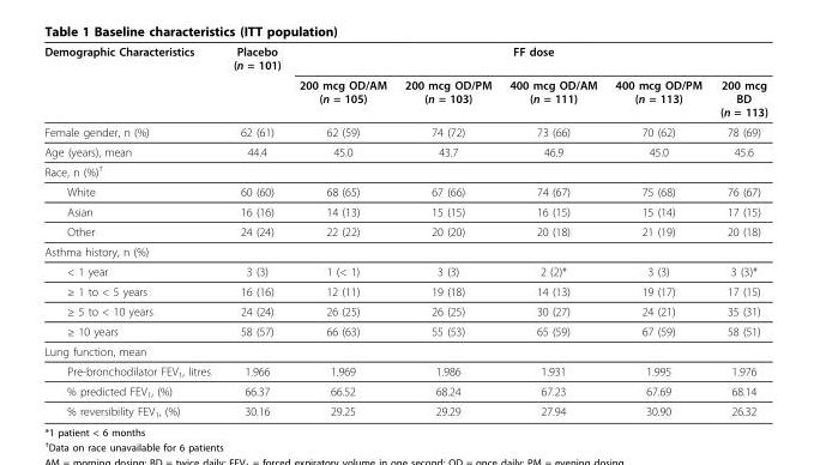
<table><thead><tr><td rowspan="2">Demographic Characteristics</td><td rowspan="2">Placebo (n = 101)</td><td colspan="5">FF dose</td></tr><tr><td>200 mcg OD/AM (n = 105)</td><td>200 mcg OD/PM (n = 103)</td><td>400 mcg OD/AM (n = 111)</td><td>400 mcg OD/PM (n = 113)</td><td>200 mcg BD (n = 113)</td></tr></thead><tbody><tr><td>Female gender, n (%)</td><td>62 (61)</td><td>62 (59)</td><td>74 (72)</td><td>73 (66)</td><td>70 (62)</td><td>78 (69)</td></tr><tr><td>Age (years), mean</td><td>44.4</td><td>45.0</td><td>43.7</td><td>46.9</td><td>45.0</td><td>45.6</td></tr><tr><td colspan="7">Race, n (%)<sup>†</sup></td></tr><tr><td>White</td><td>60 (60)</td><td>68 (65)</td><td>67 (66)</td><td>74 (67)</td><td>75 (68)</td><td>76 (67)</td></tr><tr><td>Asian</td><td>16 (16)</td><td>14 (13)</td><td>15 (15)</td><td>16 (15)</td><td>15 (14)</td><td>17 (15)</td></tr><tr><td>Other</td><td>24 (24)</td><td>22 (22)</td><td>20 (20)</td><td>20 (18)</td><td>21 (19)</td><td>20 (18)</td></tr><tr><td colspan="7">Asthma history, n (%)</td></tr><tr><td>&lt; 1 year</td><td>3 (3)</td><td>1 (&lt; 1)</td><td>3 (3)</td><td>2 (2)*</td><td>3 (3)</td><td>3 (3)*</td></tr><tr><td>≥ 1 to &lt; 5 years</td><td>16 (16)</td><td>12 (11)</td><td>19 (18)</td><td>14 (13)</td><td>19 (17)</td><td>17 (15)</td></tr><tr><td>≥ 5 to &lt; 10 years</td><td>24 (24)</td><td>26 (25)</td><td>26 (25)</td><td>30 (27)</td><td>24 (21)</td><td>35 (31)</td></tr><tr><td>≥ 10 years</td><td>58 (57)</td><td>66 (63)</td><td>55 (53)</td><td>65 (59)</td><td>67 (59)</td><td>58 (51)</td></tr><tr><td colspan="7">Lung function, mean</td></tr><tr><td>Pre-bronchodilator FEV<sub>1</sub>, litres</td><td>1.966</td><td>1.969</td><td>1.986</td><td>1.931</td><td>1.995</td><td>1.976</td></tr><tr><td>% predicted FEV<sub>1</sub>, (%)</td><td>66.37</td><td>66.52</td><td>68.24</td><td>67.23</td><td>67.69</td><td>68.14</td></tr><tr><td>% reversibility FEV<sub>1</sub>, (%)</td><td>30.16</td><td>29.25</td><td>29.29</td><td>27.94</td><td>30.90</td><td>26.32</td></tr></tbody></table>